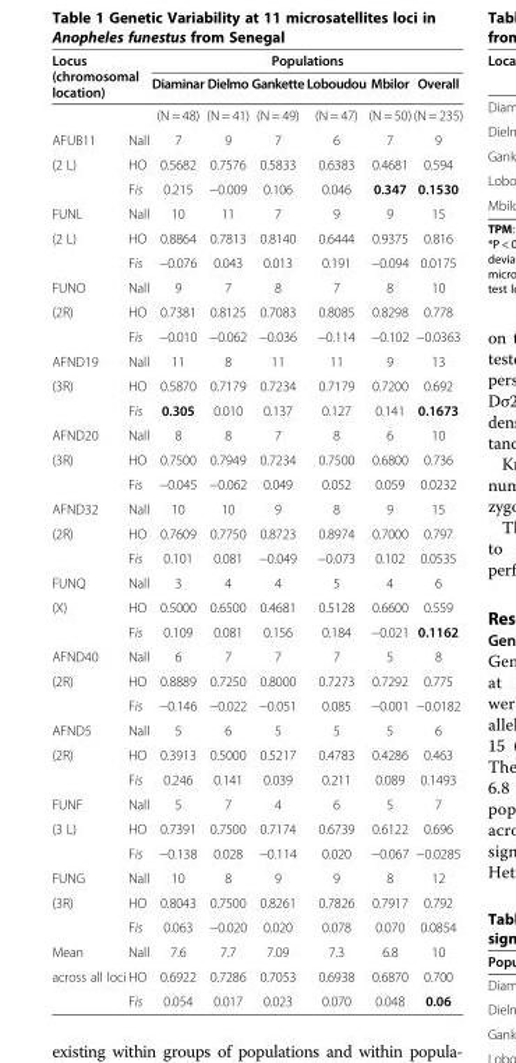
<table><thead><tr><td rowspan="3" colspan="2">Locus (chromosomal location)</td><td colspan="6">Populations</td></tr><tr><td rowspan="3">Diaminar (N = 48) 7</td><td rowspan="3">Dielmo (N = 41) 9</td><td rowspan="3">Gankette (N = 49) 7</td><td rowspan="3">Loboudou (N = 47) 6</td><td rowspan="3">Mbilor (N = 50) 7</td><td rowspan="3">Overall (N = 235) 9</td></tr><tr></tr><tr><td>AFUB11</td><td>Nall</td></tr></thead><tbody><tr><td rowspan="2">(2 L)</td><td>HO</td><td>0.5682</td><td>0.7576</td><td>0.5833</td><td>0.6383</td><td>0.4681</td><td>0.594</td></tr><tr><td>Fis</td><td>0.215</td><td>−0.009</td><td>0.106</td><td>0.046</td><td>0.347</td><td>0.1530</td></tr><tr><td>FUNL</td><td>Nall</td><td>10</td><td>11</td><td>7</td><td>9</td><td>9</td><td>15</td></tr><tr><td rowspan="2">(2 L)</td><td>HO</td><td>0.8864</td><td>0.7813</td><td>0.8140</td><td>0.6444</td><td>0.9375</td><td>0.816</td></tr><tr><td>Fis</td><td>−0.076</td><td>0.043</td><td>0.013</td><td>0.191</td><td>−0.094</td><td>0.0175</td></tr><tr><td>FUNO</td><td>Nall</td><td>9</td><td>7</td><td>8</td><td>7</td><td>8</td><td>10</td></tr><tr><td rowspan="2">(2R)</td><td>HO</td><td>0.7381</td><td>0.8125</td><td>0.7083</td><td>0.8085</td><td>0.8298</td><td>0.778</td></tr><tr><td>Fis</td><td>−0.010</td><td>−0.062</td><td>−0.036</td><td>−0.114</td><td>−0.102</td><td>−0.0363</td></tr><tr><td>AFND19</td><td>Nall</td><td>11</td><td>8</td><td>11</td><td>11</td><td>9</td><td>13</td></tr><tr><td rowspan="2">(3R)</td><td>HO</td><td>0.5870</td><td>0.7179</td><td>0.7234</td><td>0.7179</td><td>0.7200</td><td>0.692</td></tr><tr><td>Fis</td><td>0.305</td><td>0.010</td><td>0.137</td><td>0.127</td><td>0.141</td><td>0.1673</td></tr><tr><td>AFND20</td><td>Nall</td><td>8</td><td>8</td><td>7</td><td>8</td><td>6</td><td>10</td></tr><tr><td rowspan="2">(3R)</td><td>HO</td><td>0.7500</td><td>0.7949</td><td>0.7234</td><td>0.7500</td><td>0.6800</td><td>0.736</td></tr><tr><td>Fis</td><td>−0.045</td><td>−0.062</td><td>0.049</td><td>0.052</td><td>0.059</td><td>0.0232</td></tr><tr><td>AFND32</td><td>Nall</td><td>10</td><td>10</td><td>9</td><td>8</td><td>9</td><td>15</td></tr><tr><td rowspan="2">(2R)</td><td>HO</td><td>0.7609</td><td>0.7750</td><td>0.8723</td><td>0.8974</td><td>0.7000</td><td>0.797</td></tr><tr><td>Fis</td><td>0.101</td><td>0.081</td><td>−0.049</td><td>−0.073</td><td>0.102</td><td>0.0535</td></tr><tr><td>FUNQ</td><td>Nall</td><td>3</td><td>4</td><td>4</td><td>5</td><td>4</td><td>6</td></tr><tr><td rowspan="2">(X)</td><td>HO</td><td>0.5000</td><td>0.6500</td><td>0.4681</td><td>0.5128</td><td>0.6600</td><td>0.559</td></tr><tr><td>Fis</td><td>0.109</td><td>0.081</td><td>0.156</td><td>0.184</td><td>−0.021</td><td>0.1162</td></tr><tr><td>AFND40</td><td>Nall</td><td>6</td><td>7</td><td>7</td><td>7</td><td>5</td><td>8</td></tr><tr><td rowspan="2">(2R)</td><td>HO</td><td>0.8889</td><td>0.7250</td><td>0.8000</td><td>0.7273</td><td>0.7292</td><td>0.775</td></tr><tr><td>Fis</td><td>−0.146</td><td>−0.022</td><td>−0.051</td><td>0.085</td><td>−0.001</td><td>−0.0182</td></tr><tr><td>AFND5</td><td>Nall</td><td>5</td><td>6</td><td>5</td><td>5</td><td>5</td><td>6</td></tr><tr><td rowspan="2">(2R)</td><td>HO</td><td>0.3913</td><td>0.5000</td><td>0.5217</td><td>0.4783</td><td>0.4286</td><td>0.463</td></tr><tr><td>Fis</td><td>0.246</td><td>0.141</td><td>0.039</td><td>0.211</td><td>0.089</td><td>0.1493</td></tr><tr><td>FUNF</td><td>Nall</td><td>5</td><td>7</td><td>4</td><td>6</td><td>5</td><td>7</td></tr><tr><td rowspan="2">(3 L)</td><td>HO</td><td>0.7391</td><td>0.7500</td><td>0.7174</td><td>0.6739</td><td>0.6122</td><td>0.696</td></tr><tr><td>Fis</td><td>−0.138</td><td>0.028</td><td>−0.114</td><td>0.020</td><td>−0.067</td><td>−0.0285</td></tr><tr><td>FUNG</td><td>Nall</td><td>10</td><td>8</td><td>9</td><td>9</td><td>8</td><td>12</td></tr><tr><td rowspan="2">(3R)</td><td>HO</td><td>0.8043</td><td>0.7500</td><td>0.8261</td><td>0.7826</td><td>0.7917</td><td>0.792</td></tr><tr><td>Fis</td><td>0.063</td><td>−0.020</td><td>0.020</td><td>0.078</td><td>0.070</td><td>0.0854</td></tr><tr><td>Mean</td><td>Nall</td><td>7.6</td><td>7.7</td><td>7.09</td><td>7.3</td><td>6.8</td><td>10</td></tr><tr><td rowspan="2">across all loci</td><td>HO</td><td>0.6922</td><td>0.7286</td><td>0.7053</td><td>0.6938</td><td>0.6870</td><td>0.700</td></tr><tr><td>Fis</td><td>0.054</td><td>0.017</td><td>0.023</td><td>0.070</td><td>0.048</td><td>0.06</td></tr></tbody></table>